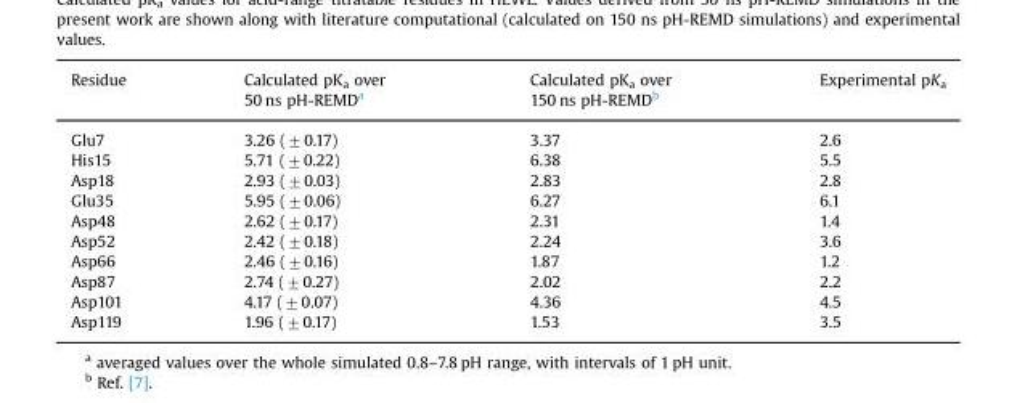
<table><thead><tr><td>Residue</td><td>Calculated pK<sub>a</sub> over 50 ns pH-REMD<sup>a</sup></td><td>Calculated pK<sub>a</sub> over 150 ns pH-REMD<sup>b</sup></td><td>Experimental pK<sub>a</sub></td></tr></thead><tbody><tr><td>Glu7</td><td>3.26 (±0.17)</td><td>3.37</td><td>2.6</td></tr><tr><td>His15</td><td>5.71 (±0.22)</td><td>6.38</td><td>5.5</td></tr><tr><td>Asp18</td><td>2.93 (±0.03)</td><td>2.83</td><td>2.8</td></tr><tr><td>Glu35</td><td>5.95 (±0.06)</td><td>6.27</td><td>6.1</td></tr><tr><td>Asp48</td><td>2.62 (±0.17)</td><td>2.31</td><td>1.4</td></tr><tr><td>Asp52</td><td>2.42 (±0.18)</td><td>2.24</td><td>3.6</td></tr><tr><td>Asp66</td><td>2.46 (±0.16)</td><td>1.87</td><td>1.2</td></tr><tr><td>Asp87</td><td>2.74 (±0.27)</td><td>2.02</td><td>2.2</td></tr><tr><td>Asp101</td><td>4.17 (±0.07)</td><td>4.36</td><td>4.5</td></tr><tr><td>Asp119</td><td>1.96 (±0.17)</td><td>1.53</td><td>3.5</td></tr></tbody></table>